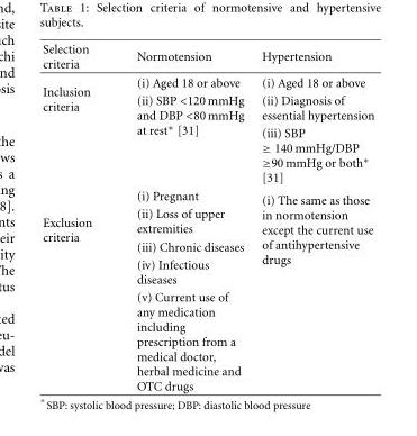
<table><thead><tr><td>Selection criteria</td><td>Normotension</td><td>Hypertension</td></tr></thead><tbody><tr><td rowspan="3">Inclusion criteria</td><td>(i) Aged 18 or above</td><td>(i) Aged 18 or above</td></tr><tr><td rowspan="2">(ii) SBP &lt;120 mmHg and DBP &lt;80 mmHg at rest∗ [31]</td><td>(ii) Diagnosis of essential hypertension</td></tr><tr><td>(iii) SBP ≥ 140 mmHg/DBP ≥90 mmHg or both∗ [31]</td></tr><tr><td rowspan="5">Exclusion criteria</td><td>(i) Pregnant</td><td rowspan="5">(i) The same as those in normotension except the current use of antihypertensive drugs</td></tr><tr><td>(ii) Loss of upper extremities</td></tr><tr><td>(iii) Chronic diseases</td></tr><tr><td>(iv) Infectious diseases</td></tr><tr><td>(v) Current use of any medication including prescription from a medical doctor, herbal medicine and OTC drugs</td></tr></tbody></table>